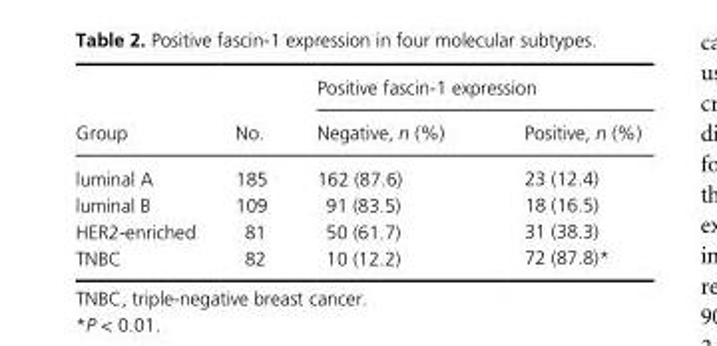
<table><thead><tr><td rowspan="2">Group</td><td rowspan="2">No.</td><td colspan="2">Positive fascin- 1 expression</td></tr><tr><td>Negative, n (%)</td><td>Positive, n (%)</td></tr></thead><tbody><tr><td>luminal A</td><td>185</td><td>162 (87.6)</td><td>23 (12.4)</td></tr><tr><td>luminal B</td><td>109</td><td>91 (83.5)</td><td>18 (16.5)</td></tr><tr><td>HER2- enriched</td><td>81</td><td>50 (61.7)</td><td>31 (38.3)</td></tr><tr><td>TNBC</td><td>82</td><td>10 (12.2)</td><td>72 (87.8)*</td></tr></tbody></table>